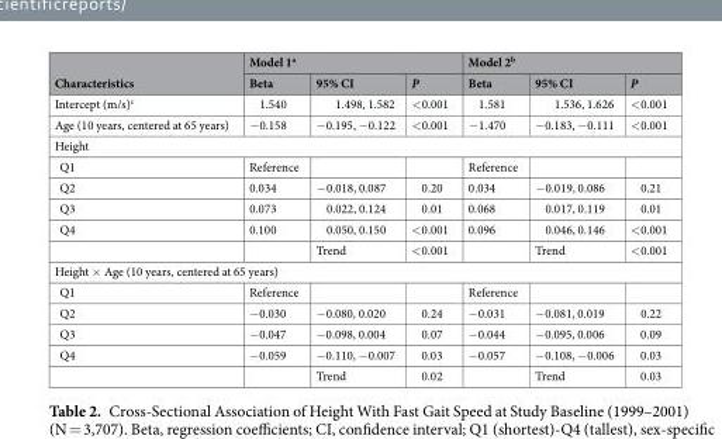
<table><thead><tr><td rowspan="2">Characteristics</td><td colspan="3">Model 1<sup>a</sup></td><td colspan="3">Model 2<sup>b</sup></td></tr><tr><td>Beta</td><td>95% CI</td><td>P</td><td>Beta</td><td>95% CI</td><td>P</td></tr></thead><tbody><tr><td>Intercept (m/s)<sup>c</sup></td><td>1.540</td><td>1.498, 1.582</td><td>&lt;0.001</td><td>1.581</td><td>1.536, 1.626</td><td>&lt;0.001</td></tr><tr><td>Age (10 years, centered at 65 years)</td><td>−0.158</td><td>−0.195, −0.122</td><td>&lt;0.001</td><td>−1.470</td><td>−0.183, −0.111</td><td>&lt;0.001</td></tr><tr><td colspan="7">Height</td></tr><tr><td>Q1</td><td>Reference</td><td></td><td></td><td>Reference</td><td></td><td></td></tr><tr><td>Q2</td><td>0.034</td><td>−0.018, 0.087</td><td>0.20</td><td>0.034</td><td>−0.019, 0.086</td><td>0.21</td></tr><tr><td>Q3</td><td>0.073</td><td>0.022, 0.124</td><td>0.01</td><td>0.068</td><td>0.017, 0.119</td><td>0.01</td></tr><tr><td rowspan="2">Q4</td><td>0.100</td><td>0.050, 0.150</td><td>&lt;0.001</td><td>0.096</td><td>0.046, 0.146</td><td>&lt;0.001</td></tr><tr><td></td><td>Trend</td><td>&lt;0.001</td><td></td><td>Trend</td><td>&lt;0.001</td></tr><tr><td colspan="7">Height × Age (10 years, centered at 65 years)</td></tr><tr><td>Q1</td><td>Reference</td><td></td><td></td><td>Reference</td><td></td><td></td></tr><tr><td>Q2</td><td>−0.030</td><td>−0.080, 0.020</td><td>0.24</td><td>−0.031</td><td>−0.081, 0.019</td><td>0.22</td></tr><tr><td>Q3</td><td>−0.047</td><td>−0.098, 0.004</td><td>0.07</td><td>−0.044</td><td>−0.095, 0.006</td><td>0.09</td></tr><tr><td rowspan="2">Q4</td><td>−0.059</td><td>−0.110, −0.007</td><td>0.03</td><td>−0.057</td><td>−0.108, −0.006</td><td>0.03</td></tr><tr><td></td><td>Trend</td><td>0.02</td><td></td><td>Trend</td><td>0.03</td></tr></tbody></table>